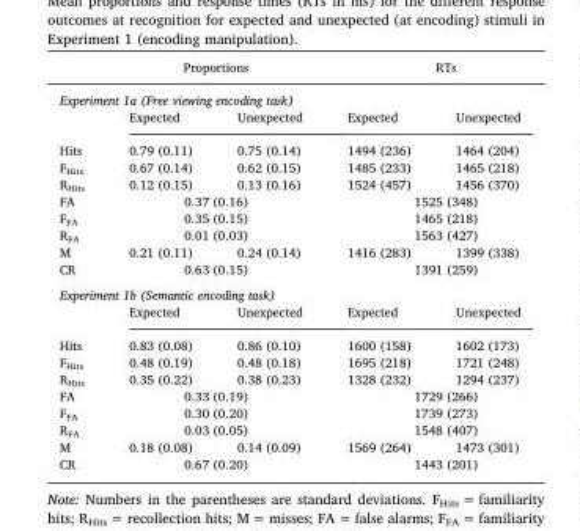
<table><thead><tr><td></td><td colspan="2">Proportions</td><td colspan="2">RTs</td></tr><tr><td colspan="5">Experiment 1a (Free viewing encoding task)</td></tr><tr><td></td><td>Expected</td><td>Unexpected</td><td>Expected</td><td>Unexpected</td></tr></thead><tbody><tr><td>Hits</td><td>0.79 (0.11)</td><td>0.75 (0.14)</td><td>1494 (236)</td><td>1464 (204)</td></tr><tr><td>F<sub>Hits</sub></td><td>0.67 (0.14)</td><td>0.62 (0.15)</td><td>1485 (233)</td><td>1465 (218)</td></tr><tr><td>R<sub>Hits</sub></td><td>0.12 (0.15)</td><td>0.13 (0.16)</td><td>1524 (457)</td><td>1456 (370)</td></tr><tr><td>FA</td><td colspan="2">0.37 (0.16)</td><td colspan="2">1525 (348)</td></tr><tr><td>F<sub>FA</sub></td><td colspan="2">0.35 (0.15)</td><td colspan="2">1465 (218)</td></tr><tr><td>R<sub>FA</sub></td><td colspan="2">0.01 (0.03)</td><td colspan="2">1563 (427)</td></tr><tr><td>M</td><td>0.21 (0.11)</td><td>0.24 (0.14)</td><td>1416 (283)</td><td>1399 (338)</td></tr><tr><td>CR</td><td colspan="2">0.63 (0.15)</td><td colspan="2">1391 (259)</td></tr><tr><td colspan="5">Experiment 1b (Semantic encoding task)</td></tr><tr><td></td><td>Expected</td><td>Unexpected</td><td>Expected</td><td>Unexpected</td></tr><tr><td>Hits</td><td>0.83 (0.08)</td><td>0.86 (0.10)</td><td>1600 (158)</td><td>1602 (173)</td></tr><tr><td>F<sub>Hits</sub></td><td>0.48 (0.19)</td><td>0.48 (0.18)</td><td>1695 (218)</td><td>1721 (248)</td></tr><tr><td>R<sub>Hits</sub></td><td>0.35 (0.22)</td><td>0.38 (0.23)</td><td>1328 (232)</td><td>1294 (237)</td></tr><tr><td>FA</td><td colspan="2">0.33 (0.19)</td><td colspan="2">1729 (266)</td></tr><tr><td>F<sub>FA</sub></td><td colspan="2">0.30 (0.20)</td><td colspan="2">1739 (273)</td></tr><tr><td>R<sub>FA</sub></td><td colspan="2">0.03 (0.05)</td><td colspan="2">1548 (407)</td></tr><tr><td>M</td><td>0.18 (0.08)</td><td>0.14 (0.09)</td><td>1569 (264)</td><td>1473 (301)</td></tr><tr><td>CR</td><td colspan="2">0.67 (0.20)</td><td colspan="2">1443 (201)</td></tr></tbody></table>